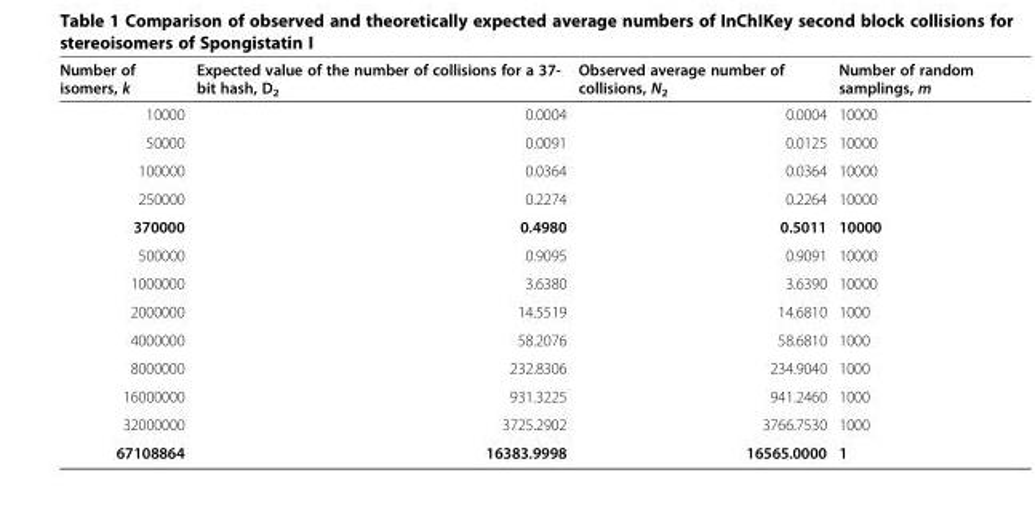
<table><thead><tr><td>Number of isomers, k</td><td>Expected value of the number of collisions for a 37- bit hash, D<sub>2</sub></td><td>Observed average number of collisions, N<sub>2</sub></td><td>Number of random samplings, m</td></tr></thead><tbody><tr><td>10000</td><td>0.0004</td><td>0.0004</td><td>10000</td></tr><tr><td>50000</td><td>0.0091</td><td>0.0125</td><td>10000</td></tr><tr><td>100000</td><td>0.0364</td><td>0.0364</td><td>10000</td></tr><tr><td>250000</td><td>0.2274</td><td>0.2264</td><td>10000</td></tr><tr><td>370000</td><td>0.4980</td><td>0.5011</td><td>10000</td></tr><tr><td>500000</td><td>0.9095</td><td>0.9091</td><td>10000</td></tr><tr><td>1000000</td><td>3.6380</td><td>3.6390</td><td>10000</td></tr><tr><td>2000000</td><td>14.5519</td><td>14.6810</td><td>1000</td></tr><tr><td>4000000</td><td>58.2076</td><td>58.6810</td><td>1000</td></tr><tr><td>8000000</td><td>232.8306</td><td>234.9040</td><td>1000</td></tr><tr><td>16000000</td><td>931.3225</td><td>941.2460</td><td>1000</td></tr><tr><td>32000000</td><td>3725.2902</td><td>3766.7530</td><td>1000</td></tr><tr><td>67108864</td><td>16383.9998</td><td>16565.0000</td><td>1</td></tr></tbody></table>